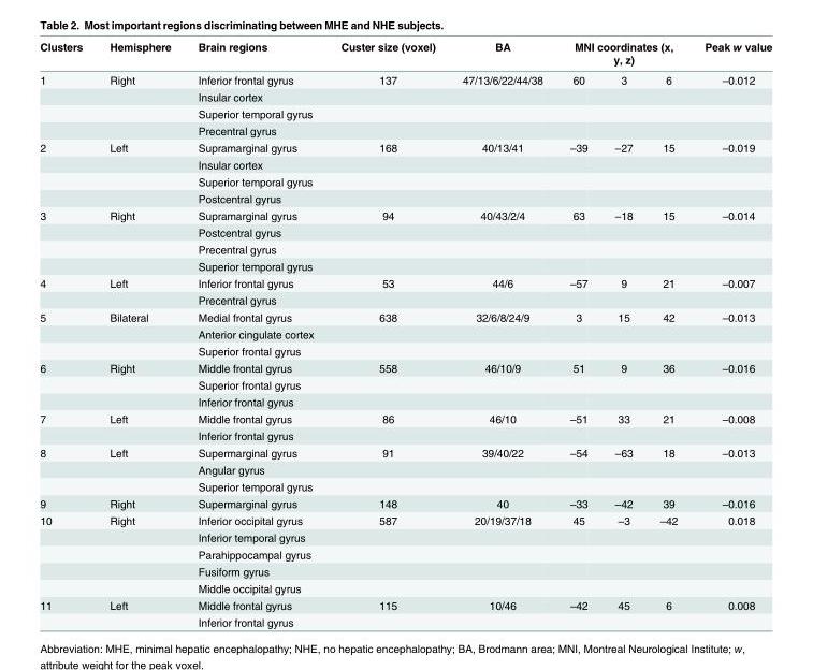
<table><thead><tr><td rowspan="2">Clusters 1</td><td rowspan="2">Hemisphere Right</td><td rowspan="2">Brain regions Inferior frontal gyrus</td><td rowspan="2">Custer size (voxel) 137</td><td rowspan="2">BA 47/13/6/22/44/38</td><td colspan="3">MNI coordinates (x, y, z)</td><td rowspan="2">Peak w value –0.012</td></tr><tr><td>60</td><td>3</td><td>6</td></tr></thead><tbody><tr><td></td><td></td><td>Insular cortex</td><td></td><td></td><td></td><td></td><td></td><td></td></tr><tr><td></td><td></td><td>Superior temporal gyrus</td><td></td><td></td><td></td><td></td><td></td><td></td></tr><tr><td></td><td></td><td>Precentral gyrus</td><td></td><td></td><td></td><td></td><td></td><td></td></tr><tr><td rowspan="4">2</td><td>Left</td><td>Supramarginal gyrus</td><td>168</td><td>40/13/41</td><td>–39</td><td>–27</td><td>15</td><td>–0.019</td></tr><tr><td></td><td>Insular cortex</td><td></td><td></td><td></td><td></td><td></td><td></td></tr><tr><td></td><td>Superior temporal gyrus</td><td></td><td></td><td></td><td></td><td></td><td></td></tr><tr><td></td><td>Postcentral gyrus</td><td></td><td></td><td></td><td></td><td></td><td></td></tr><tr><td rowspan="4">3</td><td>Right</td><td>Supramarginal gyrus</td><td>94</td><td>40/43/2/4</td><td>63</td><td>–18</td><td>15</td><td>–0.014</td></tr><tr><td></td><td>Postcentral gyrus</td><td></td><td></td><td></td><td></td><td></td><td></td></tr><tr><td></td><td>Precentral gyrus</td><td></td><td></td><td></td><td></td><td></td><td></td></tr><tr><td></td><td>Superior temporal gyrus</td><td></td><td></td><td></td><td></td><td></td><td></td></tr><tr><td rowspan="2">4</td><td>Left</td><td>Inferior frontal gyrus</td><td>53</td><td>44/6</td><td>–57</td><td>9</td><td>21</td><td>–0.007</td></tr><tr><td></td><td>Precentral gyrus</td><td></td><td></td><td></td><td></td><td></td><td></td></tr><tr><td rowspan="3">5</td><td>Bilateral</td><td>Medial frontal gyrus</td><td>638</td><td>32/6/8/24/9</td><td>3</td><td>15</td><td>42</td><td>–0.013</td></tr><tr><td></td><td>Anterior cingulate cortex</td><td></td><td></td><td></td><td></td><td></td><td></td></tr><tr><td></td><td>Superior frontal gyrus</td><td></td><td></td><td></td><td></td><td></td><td></td></tr><tr><td rowspan="3">6</td><td>Right</td><td>Middle frontal gyrus</td><td>558</td><td>46/10/9</td><td>51</td><td>9</td><td>36</td><td>–0.016</td></tr><tr><td></td><td>Superior frontal gyrus</td><td></td><td></td><td></td><td></td><td></td><td></td></tr><tr><td></td><td>Inferior frontal gyrus</td><td></td><td></td><td></td><td></td><td></td><td></td></tr><tr><td rowspan="2">7</td><td>Left</td><td>Middle frontal gyrus</td><td>86</td><td>46/10</td><td>–51</td><td>33</td><td>21</td><td>–0.008</td></tr><tr><td></td><td>Inferior frontal gyrus</td><td></td><td></td><td></td><td></td><td></td><td></td></tr><tr><td rowspan="3">8</td><td>Left</td><td>Supermarginal gyrus</td><td>91</td><td>39/40/22</td><td>–54</td><td>–63</td><td>18</td><td>–0.013</td></tr><tr><td></td><td>Angular gyrus</td><td></td><td></td><td></td><td></td><td></td><td></td></tr><tr><td></td><td>Superior temporal gyrus</td><td></td><td></td><td></td><td></td><td></td><td></td></tr><tr><td>9</td><td>Right</td><td>Supermarginal gyrus</td><td>148</td><td>40</td><td>–33</td><td>–42</td><td>39</td><td>–0.016</td></tr><tr><td rowspan="5">10</td><td>Right</td><td>Inferior occipital gyrus</td><td>587</td><td>20/19/37/18</td><td>45</td><td>–3</td><td>–42</td><td>0.018</td></tr><tr><td></td><td>Inferior temporal gyrus</td><td></td><td></td><td></td><td></td><td></td><td></td></tr><tr><td></td><td>Parahippocampal gyrus</td><td></td><td></td><td></td><td></td><td></td><td></td></tr><tr><td></td><td>Fusiform gyrus</td><td></td><td></td><td></td><td></td><td></td><td></td></tr><tr><td></td><td>Middle occipital gyrus</td><td></td><td></td><td></td><td></td><td></td><td></td></tr><tr><td rowspan="2">11</td><td>Left</td><td>Middle frontal gyrus</td><td>115</td><td>10/46</td><td>–42</td><td>45</td><td>6</td><td>0.008</td></tr><tr><td></td><td>Inferior frontal gyrus</td><td></td><td></td><td></td><td></td><td></td><td></td></tr></tbody></table>